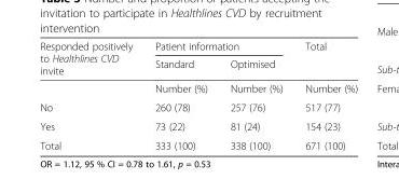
<table><thead><tr><td rowspan="2">Responded positively to Healthlines CVD invite</td><td colspan="2">Patient information</td><td rowspan="2">Total</td></tr><tr><td>Standard</td><td>Optimised</td></tr></thead><tbody><tr><td></td><td>Number (%)</td><td>Number (%)</td><td>Number (%)</td></tr><tr><td>No</td><td>260 (78)</td><td>257 (76)</td><td>517 (77)</td></tr><tr><td>Yes</td><td>73 (22)</td><td>81 (24)</td><td>154 (23)</td></tr><tr><td>Total</td><td>333 (100)</td><td>338 (100)</td><td>671 (100)</td></tr></tbody></table>